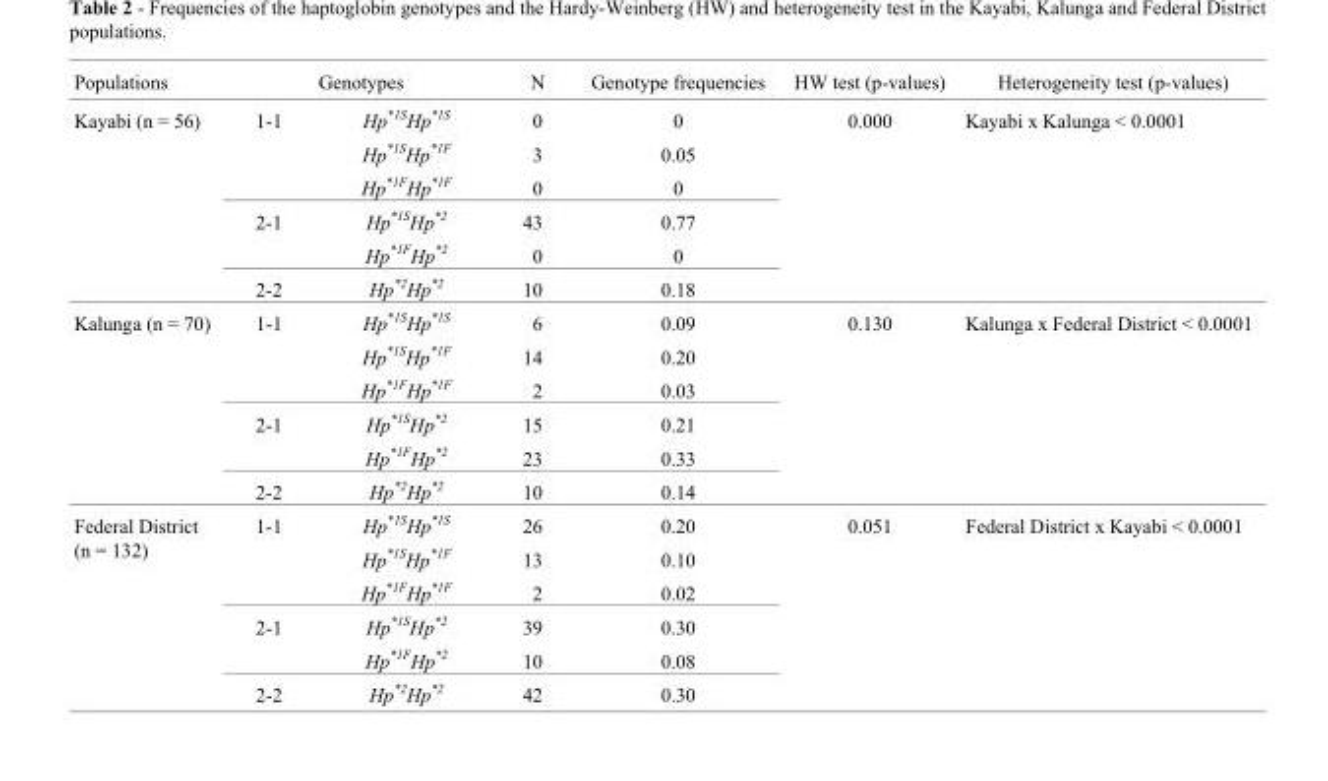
<table><thead><tr><td rowspan="2">Populations Kayabi (n = 56)</td><td colspan="2">Genotypes</td><td rowspan="2">N 0</td><td rowspan="2">Genotype frequencies 0</td><td rowspan="2">HW test (p-values) 0.000</td><td rowspan="2">Heterogeneity test (p-values) Kayabi x Kalunga &lt; 0.0001</td></tr><tr><td>1-1</td><td>Hp*1SHp*1S</td></tr></thead><tbody><tr><td></td><td></td><td>Hp*1SHp*1F</td><td>3</td><td>0.05</td><td></td><td></td></tr><tr><td></td><td></td><td>Hp*1FHp*1F</td><td>0</td><td>0</td><td></td><td></td></tr><tr><td></td><td>2-1</td><td>Hp*1SHp*2</td><td>43</td><td>0.77</td><td></td><td></td></tr><tr><td></td><td></td><td>Hp*1FHp*2</td><td>0</td><td>0</td><td></td><td></td></tr><tr><td></td><td>2-2</td><td>Hp*2Hp*2</td><td>10</td><td>0.18</td><td></td><td></td></tr><tr><td rowspan="6">Kalunga (n = 70)</td><td>1-1</td><td>Hp*1SHp*1S</td><td>6</td><td>0.09</td><td>0.130</td><td>Kalunga x Federal District &lt; 0.0001</td></tr><tr><td></td><td>Hp*1SHp*1F</td><td>14</td><td>0.20</td><td></td><td></td></tr><tr><td></td><td>Hp*1FHp*1F</td><td>2</td><td>0.03</td><td></td><td></td></tr><tr><td>2-1</td><td>Hp*1SHp*2</td><td>15</td><td>0.21</td><td></td><td></td></tr><tr><td></td><td>Hp*1FHp*2</td><td>23</td><td>0.33</td><td></td><td></td></tr><tr><td>2-2</td><td>Hp*2Hp*2</td><td>10</td><td>0.14</td><td></td><td></td></tr><tr><td rowspan="6">Federal District (n = 132)</td><td>1-1</td><td>Hp*1SHp*1S</td><td>26</td><td>0.20</td><td>0.051</td><td>Federal District x Kayabi &lt; 0.0001</td></tr><tr><td></td><td>Hp*1SHp*1F</td><td>13</td><td>0.10</td><td></td><td></td></tr><tr><td></td><td>Hp*1FHp*1F</td><td>2</td><td>0.02</td><td></td><td></td></tr><tr><td>2-1</td><td>Hp*1SHp*2</td><td>39</td><td>0.30</td><td></td><td></td></tr><tr><td></td><td>Hp*1FHp*2</td><td>10</td><td>0.08</td><td></td><td></td></tr><tr><td>2-2</td><td>Hp*2Hp*2</td><td>42</td><td>0.30</td><td></td><td></td></tr></tbody></table>